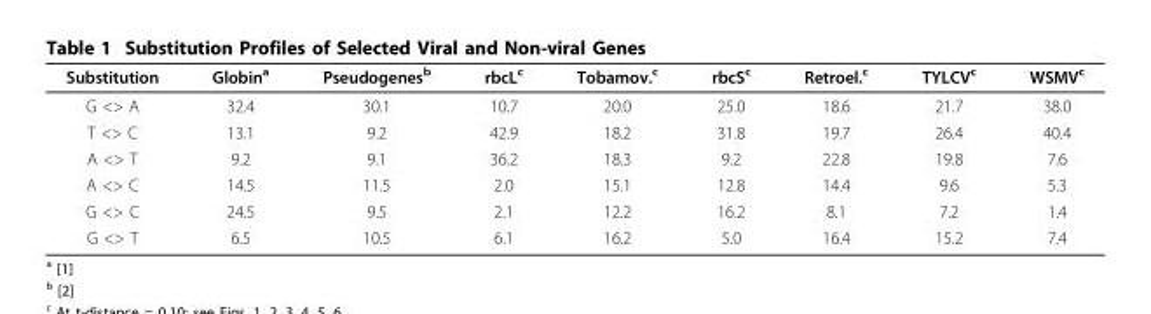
<table><thead><tr><td>Substitution</td><td>Globin<sup>a</sup></td><td>Pseudogenes<sup>b</sup></td><td>rbcL<sup>c</sup></td><td>Tobamov.<sup>c</sup></td><td>rbcS<sup>c</sup></td><td>Retroel.<sup>c</sup></td><td>TYLCV<sup>c</sup></td><td>WSMV<sup>c</sup></td></tr></thead><tbody><tr><td>G &lt;&gt; A</td><td>32.4</td><td>30.1</td><td>10.7</td><td>20.0</td><td>25.0</td><td>18.6</td><td>21.7</td><td>38.0</td></tr><tr><td>T &lt;&gt; C</td><td>13.1</td><td>9.2</td><td>42.9</td><td>18.2</td><td>31.8</td><td>19.7</td><td>26.4</td><td>40.4</td></tr><tr><td>A &lt;&gt; T</td><td>9.2</td><td>9.1</td><td>36.2</td><td>18.3</td><td>9.2</td><td>22.8</td><td>19.8</td><td>7.6</td></tr><tr><td>A &lt;&gt; C</td><td>14.5</td><td>11.5</td><td>2.0</td><td>15.1</td><td>12.8</td><td>14.4</td><td>9.6</td><td>5.3</td></tr><tr><td>G &lt;&gt; C</td><td>24.5</td><td>9.5</td><td>2.1</td><td>12.2</td><td>16.2</td><td>8.1</td><td>7.2</td><td>1.4</td></tr><tr><td>G &lt;&gt; T</td><td>6.5</td><td>10.5</td><td>6.1</td><td>16.2</td><td>5.0</td><td>16.4</td><td>15.2</td><td>7.4</td></tr></tbody></table>